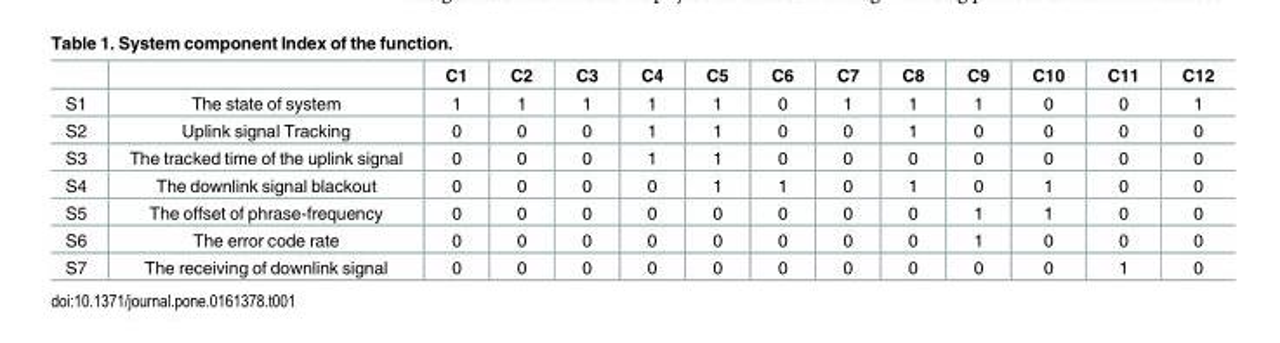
<table><thead><tr><td></td><td></td><td>C1</td><td>C2</td><td>C3</td><td>C4</td><td>C5</td><td>C6</td><td>C7</td><td>C8</td><td>C9</td><td>C10</td><td>C11</td><td>C12</td></tr></thead><tbody><tr><td>S1</td><td>The state of system</td><td>1</td><td>1</td><td>1</td><td>1</td><td>1</td><td>0</td><td>1</td><td>1</td><td>1</td><td>0</td><td>0</td><td>1</td></tr><tr><td>S2</td><td>Uplink signal Tracking</td><td>0</td><td>0</td><td>0</td><td>1</td><td>1</td><td>0</td><td>0</td><td>1</td><td>0</td><td>0</td><td>0</td><td>0</td></tr><tr><td>S3</td><td>The tracked time of the uplink signal</td><td>0</td><td>0</td><td>0</td><td>1</td><td>1</td><td>0</td><td>0</td><td>0</td><td>0</td><td>0</td><td>0</td><td>0</td></tr><tr><td>S4</td><td>The downlink signal blackout</td><td>0</td><td>0</td><td>0</td><td>0</td><td>1</td><td>1</td><td>0</td><td>1</td><td>0</td><td>1</td><td>0</td><td>0</td></tr><tr><td>S5</td><td>The offset of phrase-frequency</td><td>0</td><td>0</td><td>0</td><td>0</td><td>0</td><td>0</td><td>0</td><td>0</td><td>1</td><td>1</td><td>0</td><td>0</td></tr><tr><td>S6</td><td>The error code rate</td><td>0</td><td>0</td><td>0</td><td>0</td><td>0</td><td>0</td><td>0</td><td>0</td><td>1</td><td>0</td><td>0</td><td>0</td></tr><tr><td>S7</td><td>The receiving of downlink signal</td><td>0</td><td>0</td><td>0</td><td>0</td><td>0</td><td>0</td><td>0</td><td>0</td><td>0</td><td>0</td><td>1</td><td>0</td></tr></tbody></table>